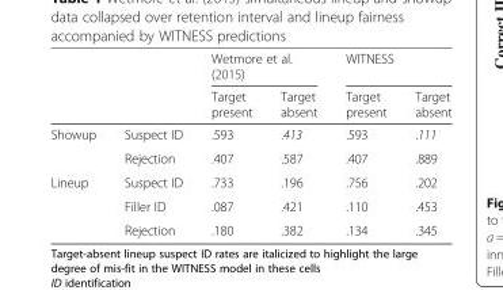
<table><thead><tr><td rowspan="2"></td><td rowspan="2"></td><td colspan="2">Wetmore et al. (2015)</td><td colspan="2">WITNESS</td></tr><tr><td>Target present</td><td>Target absent</td><td>Target present</td><td>Target absent</td></tr></thead><tbody><tr><td rowspan="2">Showup</td><td>Suspect ID</td><td>.593</td><td>.413</td><td>.593</td><td>.111</td></tr><tr><td>Rejection</td><td>.407</td><td>.587</td><td>.407</td><td>.889</td></tr><tr><td rowspan="3">Lineup</td><td>Suspect ID</td><td>.733</td><td>.196</td><td>.756</td><td>.202</td></tr><tr><td>Filler ID</td><td>.087</td><td>.421</td><td>.110</td><td>.453</td></tr><tr><td>Rejection</td><td>.180</td><td>.382</td><td>.134</td><td>.345</td></tr></tbody></table>